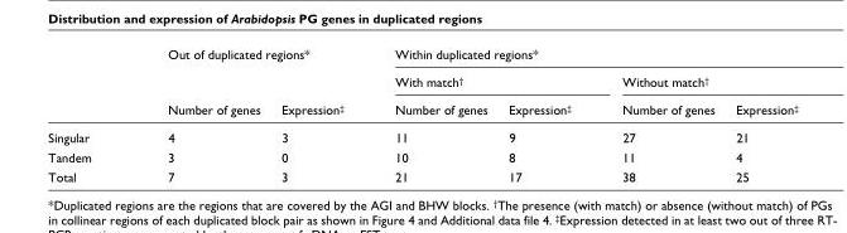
<table><thead><tr><td rowspan="3"></td><td colspan="2">Out of duplicated regions*</td><td colspan="4">Within duplicated regions*</td></tr><tr><td rowspan="2">Number of genes</td><td rowspan="2">Expression‡</td><td colspan="2">With match†</td><td colspan="2">Without match†</td></tr><tr><td>Number of genes</td><td>Expression‡</td><td>Number of genes</td><td>Expression‡</td></tr></thead><tbody><tr><td>Singular</td><td>4</td><td>3</td><td>11</td><td>9</td><td>27</td><td>21</td></tr><tr><td>Tandem</td><td>3</td><td>0</td><td>10</td><td>8</td><td>11</td><td>4</td></tr><tr><td>Total</td><td>7</td><td>3</td><td>21</td><td>17</td><td>38</td><td>25</td></tr></tbody></table>